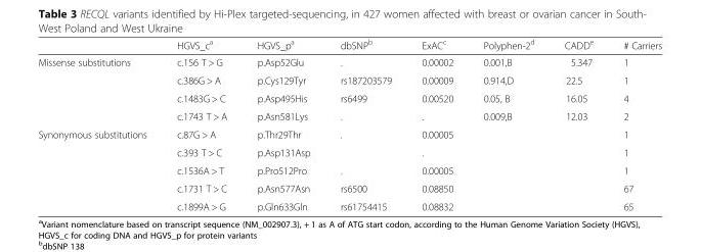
<table><thead><tr><td></td><td>HGVS_c<sup>a</sup></td><td>HGVS_p<sup>a</sup></td><td>dbSNP<sup>b</sup></td><td>ExAC<sup>c</sup></td><td>Polyphen-2<sup>d</sup></td><td>CADD<sup>e</sup></td><td># Carriers</td></tr></thead><tbody><tr><td rowspan="4">Missense substitutions</td><td>c.156 T &gt; G</td><td>p.Asp52Glu</td><td>.</td><td>0.00002</td><td>0.001,B</td><td>5.347</td><td>1</td></tr><tr><td>c.386G &gt; A</td><td>p.Cys129Tyr</td><td>rs187203579</td><td>0.00009</td><td>0.914,D</td><td>22.5</td><td>1</td></tr><tr><td>c.1483G &gt; C</td><td>p.Asp495His</td><td>rs6499</td><td>0.00520</td><td>0.05, B</td><td>16.05</td><td>4</td></tr><tr><td>c.1743 T &gt; A</td><td>p.Asn581Lys</td><td>.</td><td>.</td><td>0.009,B</td><td>12.03</td><td>2</td></tr><tr><td rowspan="5">Synonymous substitutions</td><td>c.87G &gt; A</td><td>p.Thr29Thr</td><td>.</td><td>0.00005</td><td></td><td></td><td>1</td></tr><tr><td>c.393 T &gt; C</td><td>p.Asp131Asp</td><td></td><td>.</td><td></td><td></td><td>1</td></tr><tr><td>c.1536A &gt; T</td><td>p.Pro512Pro</td><td>.</td><td>0.00005</td><td></td><td></td><td>1</td></tr><tr><td>c.1731 T &gt; C</td><td>p.Asn577Asn</td><td>rs6500</td><td>0.08850</td><td></td><td></td><td>67</td></tr><tr><td>c.1899A &gt; G</td><td>p.Gln633Gln</td><td>rs61754415</td><td>0.08832</td><td></td><td></td><td>65</td></tr></tbody></table>